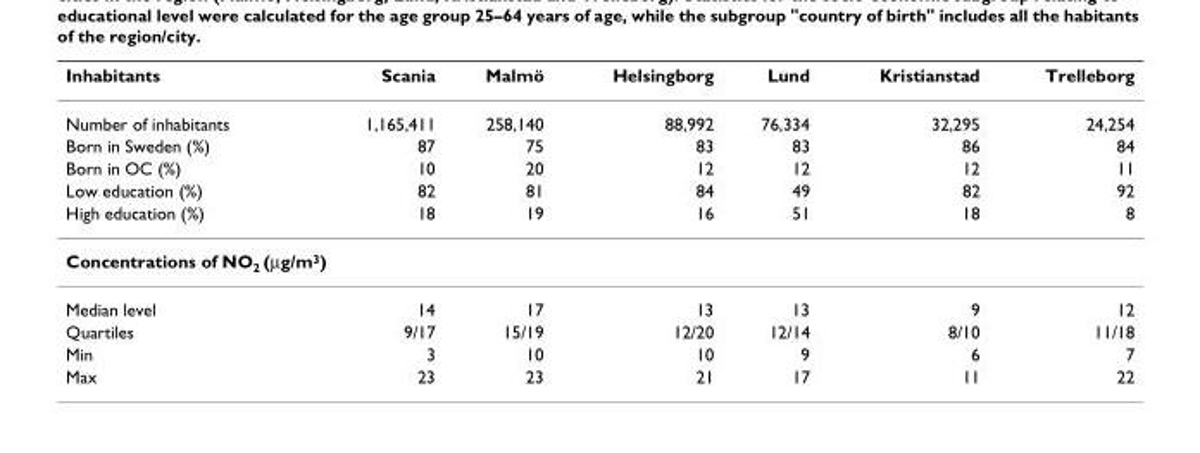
<table><thead><tr><td>Inhabitants</td><td>Scania</td><td>Malmö</td><td>Helsingborg</td><td>Lund</td><td>Kristianstad</td><td>Trelleborg</td></tr></thead><tbody><tr><td>Number of inhabitants</td><td>1,165,411</td><td>258,140</td><td>88,992</td><td>76,334</td><td>32,295</td><td>24,254</td></tr><tr><td>Born in Sweden (%)</td><td>87</td><td>75</td><td>83</td><td>83</td><td>86</td><td>84</td></tr><tr><td>Born in OC (%)</td><td>10</td><td>20</td><td>12</td><td>12</td><td>12</td><td>11</td></tr><tr><td>Low education (%)</td><td>82</td><td>81</td><td>84</td><td>49</td><td>82</td><td>92</td></tr><tr><td>High education (%)</td><td>18</td><td>19</td><td>16</td><td>51</td><td>18</td><td>8</td></tr><tr><td colspan="7">Concentrations of NO<sub>2</sub> (µg/m<sup>3</sup>)</td></tr><tr><td>Median level</td><td>14</td><td>17</td><td>13</td><td>13</td><td>9</td><td>12</td></tr><tr><td>Quartiles</td><td>9/17</td><td>15/19</td><td>12/20</td><td>12/14</td><td>8/10</td><td>11/18</td></tr><tr><td>Min</td><td>3</td><td>10</td><td>10</td><td>9</td><td>6</td><td>7</td></tr><tr><td>Max</td><td>23</td><td>23</td><td>21</td><td>17</td><td>11</td><td>22</td></tr></tbody></table>